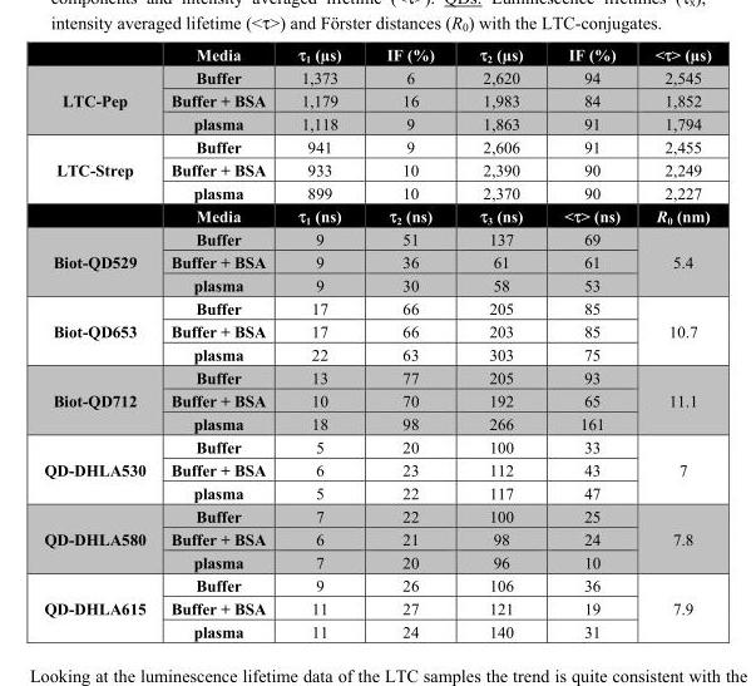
<table><thead><tr><td></td><td>Media</td><td>τ<sub>1</sub> (µs)</td><td>IF (%)</td><td>τ<sub>2</sub> (µs)</td><td>IF (%)</td><td>&lt;τ&gt; (µs)</td></tr></thead><tbody><tr><td rowspan="3">LTC-Pep</td><td>Buffer</td><td>1,373</td><td>6</td><td>2,620</td><td>94</td><td>2,545</td></tr><tr><td>Buffer + BSA</td><td>1,179</td><td>16</td><td>1,983</td><td>84</td><td>1,852</td></tr><tr><td>plasma</td><td>1,118</td><td>9</td><td>1,863</td><td>91</td><td>1,794</td></tr><tr><td rowspan="4">LTC-Strep</td><td>Buffer</td><td>941</td><td>9</td><td>2,606</td><td>91</td><td>2,455</td></tr><tr><td>Buffer + BSA</td><td>933</td><td>10</td><td>2,390</td><td>90</td><td>2,249</td></tr><tr><td>plasma</td><td>899</td><td>10</td><td>2,370</td><td>90</td><td>2,227</td></tr><tr><td>Media</td><td>τ<sub>1</sub> (ns)</td><td>τ<sub>2</sub> (ns)</td><td>τ<sub>3</sub> (ns)</td><td>&lt;τ&gt; (ns)</td><td>R<sub>0</sub> (nm)</td></tr><tr><td rowspan="3">Biot-QD529</td><td>Buffer</td><td>9</td><td>51</td><td>137</td><td>69</td><td rowspan="3">5.4</td></tr><tr><td>Buffer + BSA</td><td>9</td><td>36</td><td>61</td><td>61</td></tr><tr><td>plasma</td><td>9</td><td>30</td><td>58</td><td>53</td></tr><tr><td rowspan="3">Biot-QD653</td><td>Buffer</td><td>17</td><td>66</td><td>205</td><td>85</td><td rowspan="3">10.7</td></tr><tr><td>Buffer + BSA</td><td>17</td><td>66</td><td>203</td><td>85</td></tr><tr><td>plasma</td><td>22</td><td>63</td><td>303</td><td>75</td></tr><tr><td rowspan="3">Biot-QD712</td><td>Buffer</td><td>13</td><td>77</td><td>205</td><td>93</td><td rowspan="3">11.1</td></tr><tr><td>Buffer + BSA</td><td>10</td><td>70</td><td>192</td><td>65</td></tr><tr><td>plasma</td><td>18</td><td>98</td><td>266</td><td>161</td></tr><tr><td rowspan="3">QD-DHLA530</td><td>Buffer</td><td>5</td><td>20</td><td>100</td><td>33</td><td rowspan="3">7</td></tr><tr><td>Buffer + BSA</td><td>6</td><td>23</td><td>112</td><td>43</td></tr><tr><td>plasma</td><td>5</td><td>22</td><td>117</td><td>47</td></tr><tr><td rowspan="3">QD-DHLA580</td><td>Buffer</td><td>7</td><td>22</td><td>100</td><td>25</td><td rowspan="3">7.8</td></tr><tr><td>Buffer + BSA</td><td>6</td><td>21</td><td>98</td><td>24</td></tr><tr><td>plasma</td><td>7</td><td>20</td><td>96</td><td>10</td></tr><tr><td rowspan="3">QD-DHLA615</td><td>Buffer</td><td>9</td><td>26</td><td>106</td><td>36</td><td rowspan="3">7.9</td></tr><tr><td>Buffer + BSA</td><td>11</td><td>27</td><td>121</td><td>19</td></tr><tr><td>plasma</td><td>11</td><td>24</td><td>140</td><td>31</td></tr></tbody></table>